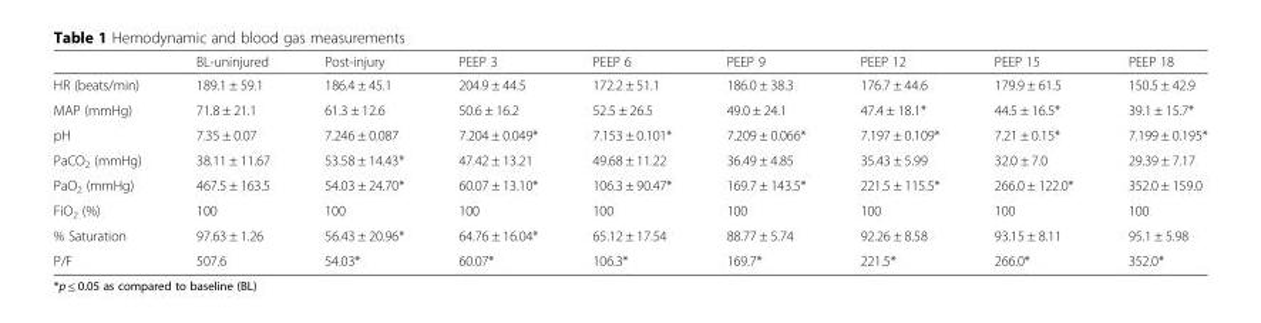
<table><thead><tr><td></td><td>BL-uninjured</td><td>Post-injury</td><td>PEEP 3</td><td>PEEP 6</td><td>PEEP 9</td><td>PEEP 12</td><td>PEEP 15</td><td>PEEP 18</td></tr></thead><tbody><tr><td>HR (beats/min)</td><td>189.1 ± 59.1</td><td>186.4 ± 45.1</td><td>204.9 ± 44.5</td><td>172.2 ± 51.1</td><td>186.0 ± 38.3</td><td>176.7 ± 44.6</td><td>179.9 ± 61.5</td><td>150.5 ± 42.9</td></tr><tr><td>MAP (mmHg)</td><td>71.8 ± 21.1</td><td>61.3 ± 12.6</td><td>50.6 ± 16.2</td><td>52.5 ± 26.5</td><td>49.0 ± 24.1</td><td>47.4 ± 18.1*</td><td>44.5 ± 16.5*</td><td>39.1 ± 15.7*</td></tr><tr><td>pH</td><td>7.35 ± 0.07</td><td>7.246 ± 0.087</td><td>7.204 ± 0.049*</td><td>7.153 ± 0.101*</td><td>7.209 ± 0.066*</td><td>7.197 ± 0.109*</td><td>7.21 ± 0.15*</td><td>7.199 ± 0.195*</td></tr><tr><td>PaCO<sub>2</sub> (mmHg)</td><td>38.11 ± 11.67</td><td>53.58 ± 14.43*</td><td>47.42 ± 13.21</td><td>49.68 ± 11.22</td><td>36.49 ± 4.85</td><td>35.43 ± 5.99</td><td>32.0 ± 7.0</td><td>29.39 ± 7.17</td></tr><tr><td>PaO<sub>2</sub> (mmHg)</td><td>467.5 ± 163.5</td><td>54.03 ± 24.70*</td><td>60.07 ± 13.10*</td><td>106.3 ± 90.47*</td><td>169.7 ± 143.5*</td><td>221.5 ± 115.5*</td><td>266.0 ± 122.0*</td><td>352.0 ± 159.0</td></tr><tr><td>FiO<sub>2</sub> (%)</td><td>100</td><td>100</td><td>100</td><td>100</td><td>100</td><td>100</td><td>100</td><td>100</td></tr><tr><td>% Saturation</td><td>97.63 ± 1.26</td><td>56.43 ± 20.96*</td><td>64.76 ± 16.04*</td><td>65.12 ± 17.54</td><td>88.77 ± 5.74</td><td>92.26 ± 8.58</td><td>93.15 ± 8.11</td><td>95.1 ± 5.98</td></tr><tr><td>P/F</td><td>507.6</td><td>54.03*</td><td>60.07*</td><td>106.3*</td><td>169.7*</td><td>221.5*</td><td>266.0*</td><td>352.0*</td></tr></tbody></table>